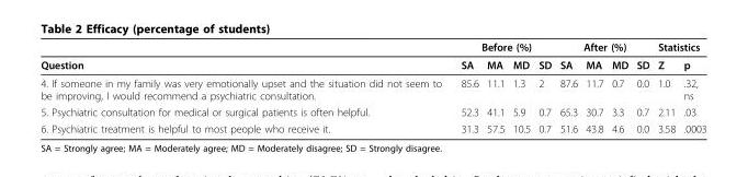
<table><thead><tr><td rowspan="2">Question</td><td colspan="4">Before (%)</td><td colspan="4">After (%)</td><td colspan="2">Statistics</td></tr><tr><td>SA</td><td>MA</td><td>MD</td><td>SD</td><td>SA</td><td>MA</td><td>MD</td><td>SD</td><td>Z</td><td>p</td></tr></thead><tbody><tr><td>4. If someone in my family was very emotionally upset and the situation did not seem to be improving, I would recommend a psychiatric consultation.</td><td>85.6</td><td>11.1</td><td>1.3</td><td>2</td><td>87.6</td><td>11.7</td><td>0.7</td><td>0.0</td><td>1.0</td><td>.32, ns</td></tr><tr><td>5. Psychiatric consultation for medical or surgical patients is often helpful.</td><td>52.3</td><td>41.1</td><td>5.9</td><td>0.7</td><td>65.3</td><td>30.7</td><td>3.3</td><td>0.7</td><td>2.11</td><td>.03</td></tr><tr><td>6. Psychiatric treatment is helpful to most people who receive it.</td><td>31.3</td><td>57.5</td><td>10.5</td><td>0.7</td><td>51.6</td><td>43.8</td><td>4.6</td><td>0.0</td><td>3.58</td><td>.0003</td></tr></tbody></table>